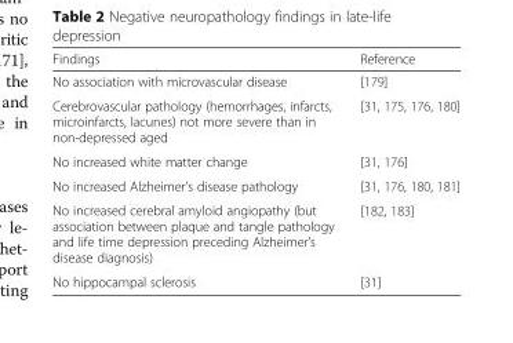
<table><thead><tr><td>Findings</td><td>Reference</td></tr></thead><tbody><tr><td>No association with microvascular disease</td><td>[179]</td></tr><tr><td>Cerebrovascular pathology (hemorrhages, infarcts, microinfarcts, lacunes) not more severe than in non-depressed aged</td><td>[31, 175, 176, 180]</td></tr><tr><td>No increased white matter change</td><td>[31, 176]</td></tr><tr><td>No increased Alzheimer’s disease pathology</td><td>[31, 176, 180, 181]</td></tr><tr><td>No increased cerebral amyloid angiopathy (but association between plaque and tangle pathology and life time depression preceding Alzheimer’s disease diagnosis)</td><td>[182, 183]</td></tr><tr><td>No hippocampal sclerosis</td><td>[31]</td></tr></tbody></table>